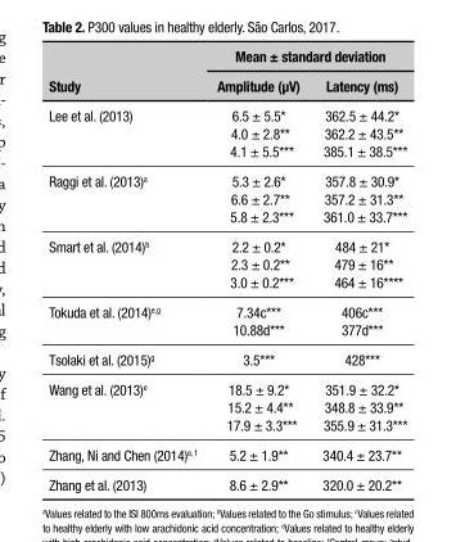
<table><thead><tr><td rowspan="2">Study</td><td colspan="2">Mean ± standard deviation</td></tr><tr><td>Amplitude (µV)</td><td>Latency (ms)</td></tr></thead><tbody><tr><td>Lee et al. (2013)</td><td>6.5 ± 5.5* 4.0 ± 2.8** 4.1 ± 5.5***</td><td>362.5 ± 44.2* 362.2 ± 43.5** 385.1 ± 38.5***</td></tr><tr><td>Raggi et al. (2013)<sup>a</sup></td><td>5.3 ± 2.6* 6.6 ± 2.7** 5.8 ± 2.3***</td><td>357.8 ± 30.9* 357.2 ± 31.3** 361.0 ± 33.7***</td></tr><tr><td>Smart et al. (2014)<sup>b</sup></td><td>2.2 ± 0.2* 2.3 ± 0.2** 3.0 ± 0.2***</td><td>484 ± 21* 479 ± 16** 464 ± 16****</td></tr><tr><td>Tokuda et al. (2014)<sup>e,g</sup></td><td>7.34<sup>c</sup>*** 10.88<sup>d</sup>***</td><td>406<sup>c</sup>*** 377<sup>d</sup>***</td></tr><tr><td>Tsolaki et al. (2015)<sup>g</sup></td><td>3.5***</td><td>428***</td></tr><tr><td>Wang et al. (2013)<sup>e</sup></td><td>18.5 ± 9.2* 15.2 ± 4.4** 17.9 ± 3.3***</td><td>351.9 ± 32.2* 348.8 ± 33.9** 355.9 ± 31.3***</td></tr><tr><td>Zhang, Ni and Chen (2014)<sup>e, f</sup></td><td>5.2 ± 1.9**</td><td>340.4 ± 23.7**</td></tr><tr><td>Zhang et al. (2013)</td><td>8.6 ± 2.9**</td><td>320.0 ± 20.2**</td></tr></tbody></table>